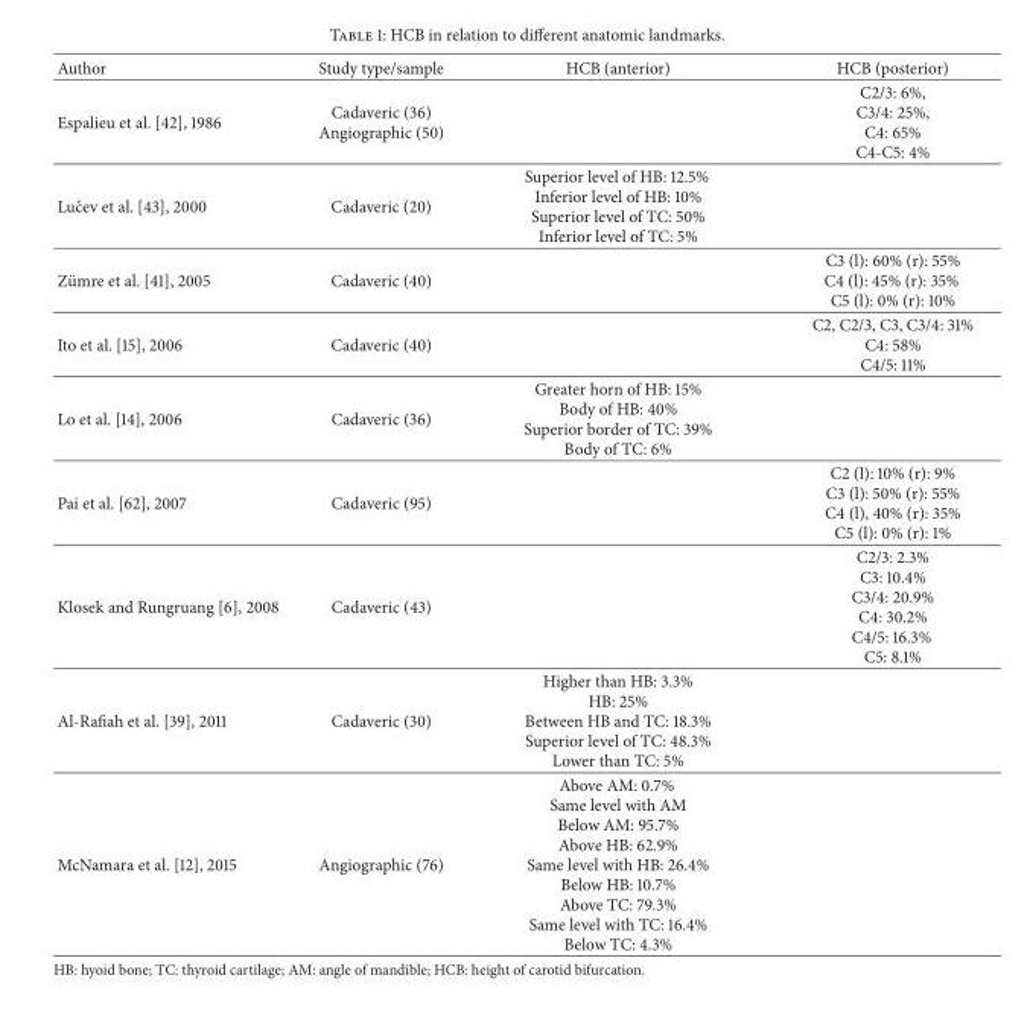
<table><thead><tr><td>Author</td><td>Study type/sample</td><td>HCB (anterior)</td><td>HCB (posterior)</td></tr></thead><tbody><tr><td>Espalieu et al. [42], 1986</td><td>Cadaveric (36) Angiographic (50)</td><td></td><td>C2/3: 6%, C3/4: 25%, C4: 65% C4-C5: 4%</td></tr><tr><td>Luˇcev et al. [43], 2000</td><td>Cadaveric (20)</td><td>Superior level of HB: 12.5% Inferior level of HB: 10% Superior level of TC: 50% Inferior level of TC: 5%</td><td></td></tr><tr><td>Z¨umre et al. [41], 2005</td><td>Cadaveric (40)</td><td></td><td>C3 (l): 60% (r): 55% C4 (l): 45% (r): 35% C5 (l): 0% (r): 10%</td></tr><tr><td>Ito et al. [15], 2006</td><td>Cadaveric (40)</td><td></td><td>C2, C2/3, C3, C3/4: 31% C4: 58% C4/5: 11%</td></tr><tr><td>Lo et al. [14], 2006</td><td>Cadaveric (36)</td><td>Greater horn of HB: 15% Body of HB: 40% Superior border of TC: 39% Body of TC: 6%</td><td></td></tr><tr><td>Pai et al. [62], 2007</td><td>Cadaveric (95)</td><td></td><td>C2 (l): 10% (r): 9% C3 (l): 50% (r): 55% C4 (l), 40% (r): 35% C5 (l): 0% (r): 1%</td></tr><tr><td>Klosek and Rungruang [6], 2008</td><td>Cadaveric (43)</td><td></td><td>C2/3: 2.3% C3: 10.4% C3/4: 20.9% C4: 30.2% C4/5: 16.3% C5: 8.1%</td></tr><tr><td>Al-Rafiah et al. [39], 2011</td><td>Cadaveric (30)</td><td>Higher than HB: 3.3% HB: 25% Between HB and TC: 18.3% Superior level of TC: 48.3% Lower than TC: 5%</td><td></td></tr><tr><td>McNamara et al. [12], 2015</td><td>Angiographic (76)</td><td>Above AM: 0.7% Same level with AM Below AM: 95.7% Above HB: 62.9% Same level with HB: 26.4% Below HB: 10.7% Above TC: 79.3% Same level with TC: 16.4% Below TC: 4.3%</td><td></td></tr></tbody></table>